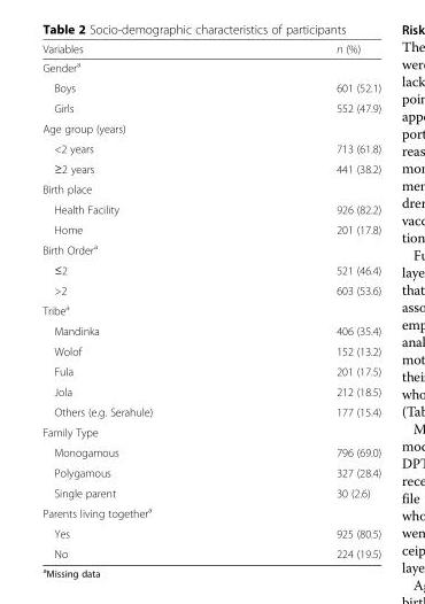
<table><thead><tr><td>Variables</td><td>n (%)</td></tr></thead><tbody><tr><td colspan="2">Gender<sup>a</sup></td></tr><tr><td>Boys</td><td>601 (52.1)</td></tr><tr><td>Girls</td><td>552 (47.9)</td></tr><tr><td colspan="2">Age group (years)</td></tr><tr><td>&lt;2 years</td><td>713 (61.8)</td></tr><tr><td>≥2 years</td><td>441 (38.2)</td></tr><tr><td colspan="2">Birth place</td></tr><tr><td>Health Facility</td><td>926 (82.2)</td></tr><tr><td>Home</td><td>201 (17.8)</td></tr><tr><td colspan="2">Birth Order<sup>a</sup></td></tr><tr><td>≤2</td><td>521 (46.4)</td></tr><tr><td>&gt;2</td><td>603 (53.6)</td></tr><tr><td colspan="2">Tribe<sup>a</sup></td></tr><tr><td>Mandinka</td><td>406 (35.4)</td></tr><tr><td>Wolof</td><td>152 (13.2)</td></tr><tr><td>Fula</td><td>201 (17.5)</td></tr><tr><td>Jola</td><td>212 (18.5)</td></tr><tr><td>Others (e.g. Serahule)</td><td>177 (15.4)</td></tr><tr><td colspan="2">Family Type</td></tr><tr><td>Monogamous</td><td>796 (69.0)</td></tr><tr><td>Polygamous</td><td>327 (28.4)</td></tr><tr><td>Single parent</td><td>30 (2.6)</td></tr><tr><td colspan="2">Parents living together<sup>a</sup></td></tr><tr><td>Yes</td><td>925 (80.5)</td></tr><tr><td>No</td><td>224 (19.5)</td></tr></tbody></table>